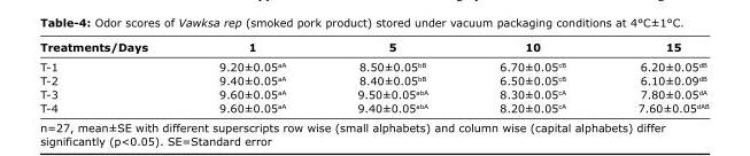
<table><thead><tr><td>Treatments/Days</td><td>1</td><td>5</td><td>10</td><td>15</td></tr></thead><tbody><tr><td>T-1</td><td>9.20±0.05<sup>aA</sup></td><td>8.50±0.05<sup>bB</sup></td><td>6.70±0.05<sup>cB</sup></td><td>6.20±0.05<sup>dB</sup></td></tr><tr><td>T-2</td><td>9.40±0.05<sup>aA</sup></td><td>8.40±0.05<sup>bB</sup></td><td>6.50±0.05<sup>cB</sup></td><td>6.10±0.09<sup>dB</sup></td></tr><tr><td>T-3</td><td>9.60±0.05<sup>aA</sup></td><td>9.50±0.05<sup>abA</sup></td><td>8.30±0.05<sup>cA</sup></td><td>7.80±0.05<sup>dA</sup></td></tr><tr><td>T-4</td><td>9.60±0.05<sup>aA</sup></td><td>9.40±0.05<sup>abA</sup></td><td>8.20±0.05<sup>cA</sup></td><td>7.60±0.05<sup>dAB</sup></td></tr></tbody></table>